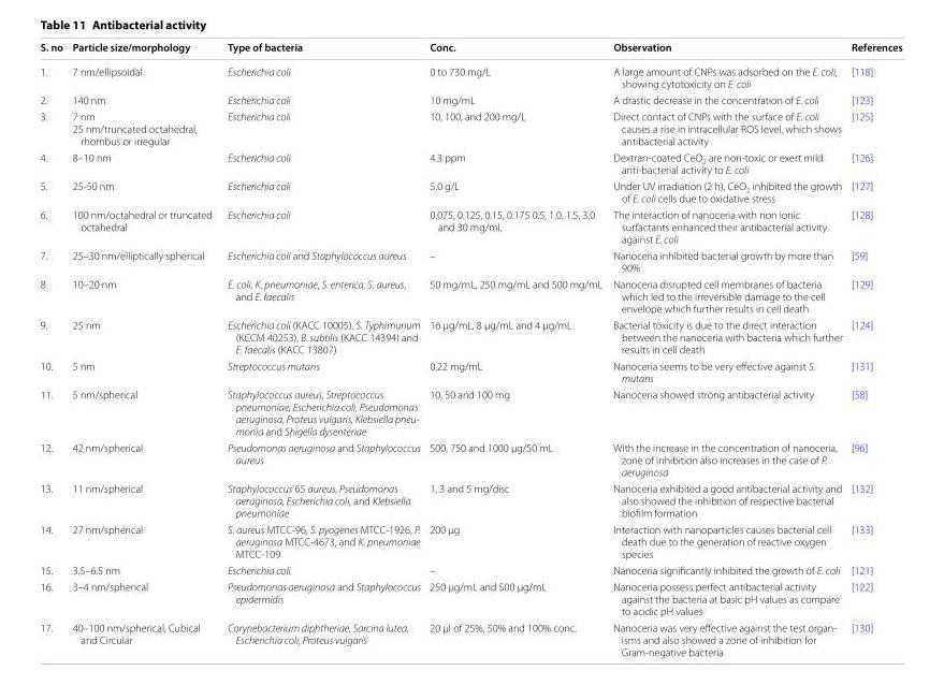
<table><thead><tr><td>S. no</td><td>Particle size/morphology</td><td>Type of bacteria</td><td>Conc.</td><td>Observation</td><td>References</td></tr></thead><tbody><tr><td>1.</td><td>7 nm/ellipsoidal</td><td>Escherichia coli</td><td>0 to 730 mg/L</td><td>A large amount of CNPs was adsorbed on the E. coli, showing cytotoxicity on E. coli</td><td>[118]</td></tr><tr><td>2.</td><td>140 nm</td><td>Escherichia coli</td><td>10 mg/mL</td><td>A drastic decrease in the concentration of E. coli</td><td>[123]</td></tr><tr><td>3.</td><td>7 nm 25 nm/truncated octahedral, rhombus or irregular</td><td>Escherichia coli</td><td>10, 100, and 200 mg/L</td><td>Direct contact of CNPs with the surface of E. coli causes a rise in intracellular ROS level, which shows antibacterial activity</td><td>[125]</td></tr><tr><td>4.</td><td>8–10 nm</td><td>Escherichia coli</td><td>4.3 ppm</td><td>Dextran-coated CeO<sub>2</sub> are non-toxic or exert mild anti-bacterial activity to E. coli</td><td>[126]</td></tr><tr><td>5.</td><td>25-50 nm</td><td>Escherichia coli</td><td>5.0 g/L</td><td>Under UV irradiation (2 h), CeO<sub>2</sub> inhibited the growth of E. coli cells due to oxidative stress</td><td>[127]</td></tr><tr><td>6.</td><td>100 nm/octahedral or truncated octahedral</td><td>Escherichia coli</td><td>0.075, 0.125, 0.15, 0.175 0.5, 1.0, 1.5, 3.0 and 30 mg/mL</td><td>The interaction of nanoceria with non ionic surfactants enhanced their antibacterial activity against E. coli</td><td>[128]</td></tr><tr><td>7.</td><td>25–30 nm/elliptically spherical</td><td>Escherichia coli and Staphylococcus aureus</td><td>–</td><td>Nanoceria inhibited bacterial growth by more than 90%</td><td>[59]</td></tr><tr><td>8.</td><td>10–20 nm</td><td>E. coli, K. pneumoniae, S. enterica, S. aureus, and E. faecalis</td><td>50 mg/mL, 250 mg/mL and 500 mg/mL</td><td>Nanoceria disrupted cell membranes of bacteria which led to the irreversible damage to the cell envelope which further results in cell death</td><td>[129]</td></tr><tr><td>9.</td><td>25 nm</td><td>Escherichia coli (KACC 10005), S. Typhimurium (KCCM 40253), B. subtilis (KACC 14394) and E. faecalis (KACC 13807)</td><td>16 µg/mL, 8 µg/mL and 4 µg/mL</td><td>Bacterial toxicity is due to the direct interaction between the nanoceria with bacteria which further results in cell death</td><td>[124]</td></tr><tr><td>10.</td><td>5 nm</td><td>Streptococcus mutans</td><td>0.22 mg/mL</td><td>Nanoceria seems to be very effective against S. mutans</td><td>[131]</td></tr><tr><td>11.</td><td>5 nm/spherical</td><td>Staphylococcus aureus, Streptococcus pneumoniae, Escherichia coli, Pseudomonas aeruginosa, Proteus vulgaris, Klebsiella pneu- monia and Shigella dysenteriae</td><td>10, 50 and 100 mg</td><td>Nanoceria showed strong antibacterial activity</td><td>[58]</td></tr><tr><td>12.</td><td>42 nm/spherical</td><td>Pseudomonas aeruginosa and Staphylococcus aureus</td><td>500, 750 and 1000 µg/50 mL</td><td>With the increase in the concentration of nanoceria, zone of inhibition also increases in the case of P. aeruginosa</td><td>[96]</td></tr><tr><td>13.</td><td>11 nm/spherical</td><td>Staphylococcus 65 aureus, Pseudomonas aeruginosa, Escherichia coli, and Klebsiella pneumoniae</td><td>1, 3 and 5 mg/disc</td><td>Nanoceria exhibited a good antibacterial activity and also showed the inhibition of respective bacterial biofilm formation</td><td>[132]</td></tr><tr><td>14.</td><td>27 nm/spherical</td><td>S. aureus MTCC-96, S. pyogenes MTCC-1926, P. aeruginosa MTCC-4673, and K. pneumoniae MTCC-109</td><td>200 µg</td><td>Interaction with nanoparticles causes bacterial cell death due to the generation of reactive oxygen species</td><td>[133]</td></tr><tr><td>15.</td><td>3.5–6.5 nm</td><td>Escherichia coli</td><td>–</td><td>Nanoceria significantly inhibited the growth of E. coli</td><td>[121]</td></tr><tr><td>16.</td><td>3–4 nm/spherical</td><td>Pseudomonas aeruginosa and Staphylococcus epidermidis</td><td>250 μg/mL and 500 µg/mL</td><td>Nanoceria possess perfect antibacterial activity against the bacteria at basic pH values as compare to acidic pH values</td><td>[122]</td></tr><tr><td>17.</td><td>40–100 nm/spherical, Cubical and Circular</td><td>Corynebacterium diphtheriae, Sarcina lutea, Escherichia coli, Proteus vulgaris</td><td>20 µl of 25%, 50% and 100% conc.</td><td>Nanoceria was very effective against the test organ- isms and also showed a zone of inhibition for Gram-negative bacteria</td><td>[130]</td></tr></tbody></table>